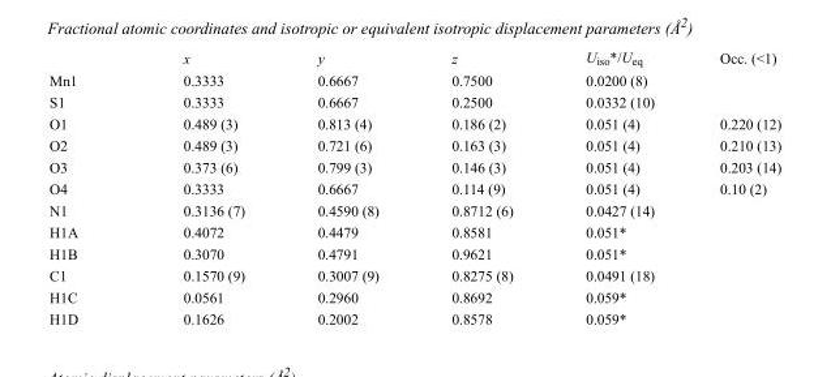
<table><thead><tr><td></td><td>x</td><td>y</td><td>z</td><td>Uiso*/Ueq</td><td>Occ. (&lt;1)</td></tr></thead><tbody><tr><td>Mn1</td><td>0.3333</td><td>0.6667</td><td>0.7500</td><td>0.0200 (8)</td><td></td></tr><tr><td>S1</td><td>0.3333</td><td>0.6667</td><td>0.2500</td><td>0.0332 (10)</td><td></td></tr><tr><td>O1</td><td>0.489 (3)</td><td>0.813 (4)</td><td>0.186 (2)</td><td>0.051 (4)</td><td>0.220 (12)</td></tr><tr><td>O2</td><td>0.489 (3)</td><td>0.721 (6)</td><td>0.163 (3)</td><td>0.051 (4)</td><td>0.210 (13)</td></tr><tr><td>O3</td><td>0.373 (6)</td><td>0.799 (3)</td><td>0.146 (3)</td><td>0.051 (4)</td><td>0.203 (14)</td></tr><tr><td>O4</td><td>0.3333</td><td>0.6667</td><td>0.114 (9)</td><td>0.051 (4)</td><td>0.10 (2)</td></tr><tr><td>N1</td><td>0.3136 (7)</td><td>0.4590 (8)</td><td>0.8712 (6)</td><td>0.0427 (14)</td><td></td></tr><tr><td>H1A</td><td>0.4072</td><td>0.4479</td><td>0.8581</td><td>0.051*</td><td></td></tr><tr><td>H1B</td><td>0.3070</td><td>0.4791</td><td>0.9621</td><td>0.051*</td><td></td></tr><tr><td>C1</td><td>0.1570 (9)</td><td>0.3007 (9)</td><td>0.8275 (8)</td><td>0.0491 (18)</td><td></td></tr><tr><td>H1C</td><td>0.0561</td><td>0.2960</td><td>0.8692</td><td>0.059*</td><td></td></tr><tr><td>H1D</td><td>0.1626</td><td>0.2002</td><td>0.8578</td><td>0.059*</td><td></td></tr></tbody></table>